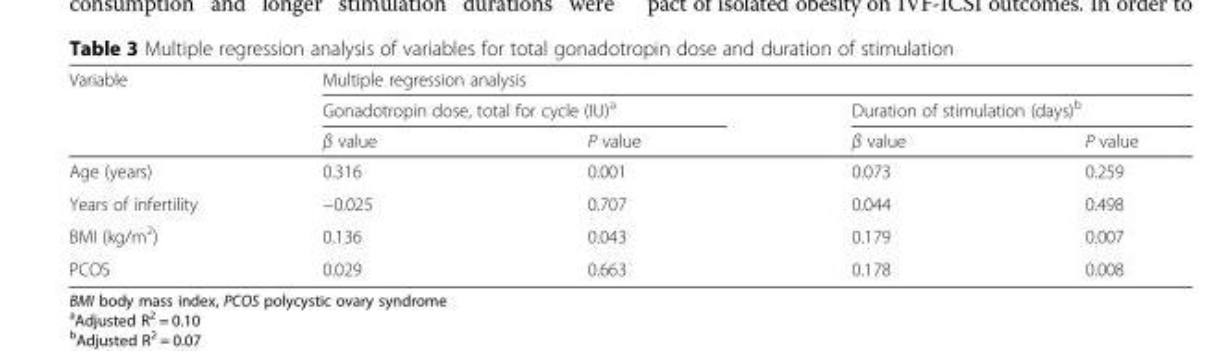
<table><thead><tr><td rowspan="3">Variable</td><td colspan="4">Multiple regression analysis</td></tr><tr><td colspan="2">Gonadotropin dose, total for cycle (IU)<sup>a</sup></td><td colspan="2">Duration of stimulation (days)<sup>b</sup></td></tr><tr><td>β value</td><td>P value</td><td>β value</td><td>P value</td></tr></thead><tbody><tr><td>Age (years)</td><td>0.316</td><td>0.001</td><td>0.073</td><td>0.259</td></tr><tr><td>Years of infertility</td><td>−0.025</td><td>0.707</td><td>0.044</td><td>0.498</td></tr><tr><td>BMI (kg/m<sup>2</sup>)</td><td>0.136</td><td>0.043</td><td>0.179</td><td>0.007</td></tr><tr><td>PCOS</td><td>0.029</td><td>0.663</td><td>0.178</td><td>0.008</td></tr></tbody></table>